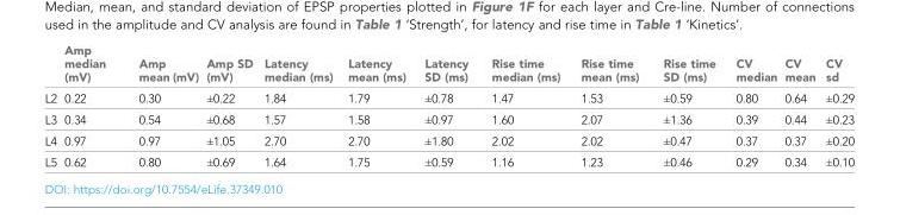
<table><thead><tr><td></td><td>Amp median (mV)</td><td>Amp mean (mV)</td><td>Amp SD (mV)</td><td>Latency median (ms)</td><td>Latency mean (ms)</td><td>Latency SD (ms)</td><td>Rise time median (ms)</td><td>Rise time mean (ms)</td><td>Rise time SD (ms)</td><td>CV median</td><td>CV mean</td><td>CV sd</td></tr></thead><tbody><tr><td>L2</td><td>0.22</td><td>0.30</td><td>±0.22</td><td>1.84</td><td>1.79</td><td>±0.78</td><td>1.47</td><td>1.53</td><td>±0.59</td><td>0.80</td><td>0.64</td><td>±0.29</td></tr><tr><td>L3</td><td>0.34</td><td>0.54</td><td>±0.68</td><td>1.57</td><td>1.58</td><td>±0.97</td><td>1.60</td><td>2.07</td><td>±1.36</td><td>0.39</td><td>0.44</td><td>±0.23</td></tr><tr><td>L4</td><td>0.97</td><td>0.97</td><td>±1.05</td><td>2.70</td><td>2.70</td><td>±1.80</td><td>2.02</td><td>2.02</td><td>±0.47</td><td>0.37</td><td>0.37</td><td>±0.20</td></tr><tr><td>L5</td><td>0.62</td><td>0.80</td><td>±0.69</td><td>1.64</td><td>1.75</td><td>±0.59</td><td>1.16</td><td>1.23</td><td>±0.46</td><td>0.29</td><td>0.34</td><td>±0.10</td></tr></tbody></table>